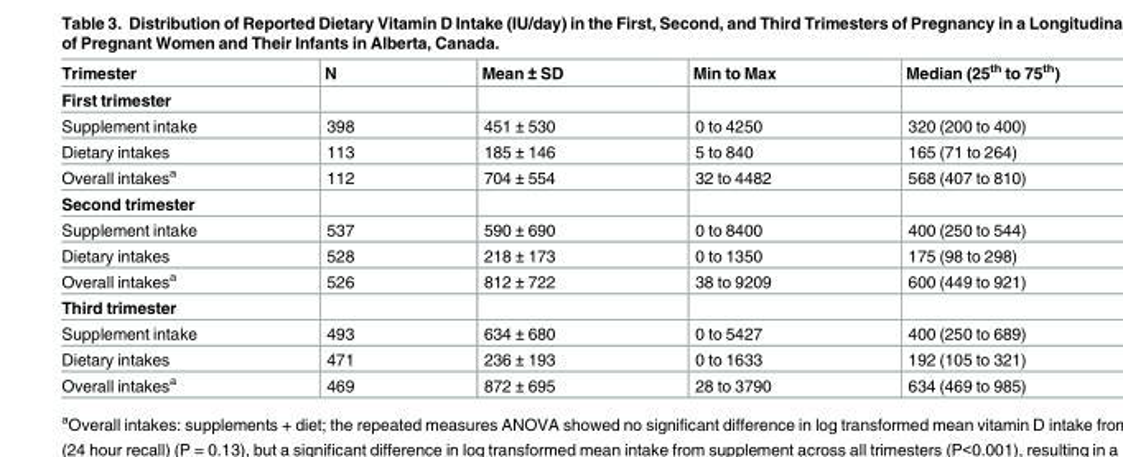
<table><thead><tr><td>Trimester</td><td>N</td><td>Mean ± SD</td><td>Min to Max</td><td>Median (25<sup>th</sup> to 75<sup>th</sup>)</td></tr></thead><tbody><tr><td colspan="5">First trimester</td></tr><tr><td>Supplement intake</td><td>398</td><td>451 ± 530</td><td>0 to 4250</td><td>320 (200 to 400)</td></tr><tr><td>Dietary intakes</td><td>113</td><td>185 ± 146</td><td>5 to 840</td><td>165 (71 to 264)</td></tr><tr><td>Overall intakes<sup>a</sup></td><td>112</td><td>704 ± 554</td><td>32 to 4482</td><td>568 (407 to 810)</td></tr><tr><td colspan="5">Second trimester</td></tr><tr><td>Supplement intake</td><td>537</td><td>590 ± 690</td><td>0 to 8400</td><td>400 (250 to 544)</td></tr><tr><td>Dietary intakes</td><td>528</td><td>218 ± 173</td><td>0 to 1350</td><td>175 (98 to 298)</td></tr><tr><td>Overall intakes<sup>a</sup></td><td>526</td><td>812 ± 722</td><td>38 to 9209</td><td>600 (449 to 921)</td></tr><tr><td colspan="5">Third trimester</td></tr><tr><td>Supplement intake</td><td>493</td><td>634 ± 680</td><td>0 to 5427</td><td>400 (250 to 689)</td></tr><tr><td>Dietary intakes</td><td>471</td><td>236 ± 193</td><td>0 to 1633</td><td>192 (105 to 321)</td></tr><tr><td>Overall intakes<sup>a</sup></td><td>469</td><td>872 ± 695</td><td>28 to 3790</td><td>634 (469 to 985)</td></tr></tbody></table>